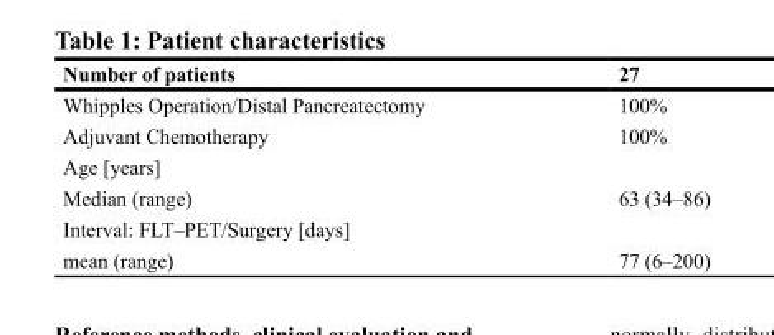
<table><thead><tr><td>Number of patients</td><td>27</td></tr></thead><tbody><tr><td>Whipples Operation/Distal Pancreatectomy</td><td>100%</td></tr><tr><td>Adjuvant Chemotherapy</td><td>100%</td></tr><tr><td colspan="2">Age [years]</td></tr><tr><td>Median (range)</td><td>63 (34–86)</td></tr><tr><td colspan="2">Interval: FLT–PET/Surgery [days]</td></tr><tr><td>mean (range)</td><td>77 (6–200)</td></tr></tbody></table>